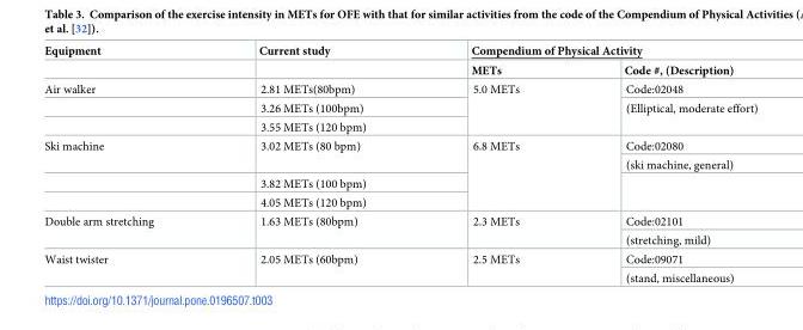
<table><thead><tr><td rowspan="2">Equipment</td><td rowspan="2">Current study</td><td colspan="2">Compendium of Physical Activity</td></tr><tr><td>METs</td><td>Code #, (Description)</td></tr></thead><tbody><tr><td rowspan="3">Air walker</td><td>2.81 METs(80bpm)</td><td rowspan="3">5.0 METs</td><td>Code:02048</td></tr><tr><td>3.26 METs (100bpm)</td><td rowspan="2">(Elliptical, moderate effort)</td></tr><tr><td>3.55 METs (120 bpm)</td></tr><tr><td rowspan="4">Ski machine</td><td rowspan="2">3.02 METs (80 bpm)</td><td rowspan="4">6.8 METs</td><td>Code:02080</td></tr><tr><td>(ski machine, general)</td></tr><tr><td>3.82 METs (100 bpm)</td><td rowspan="2"></td></tr><tr><td>4.05 METs (120 bpm)</td></tr><tr><td rowspan="2">Double arm stretching</td><td rowspan="2">1.63 METs (80bpm)</td><td rowspan="2">2.3 METs</td><td>Code:02101</td></tr><tr><td>(stretching, mild)</td></tr><tr><td rowspan="2">Waist twister</td><td rowspan="2">2.05 METs (60bpm)</td><td rowspan="2">2.5 METs</td><td>Code:09071</td></tr><tr><td>(stand, miscellaneous)</td></tr></tbody></table>